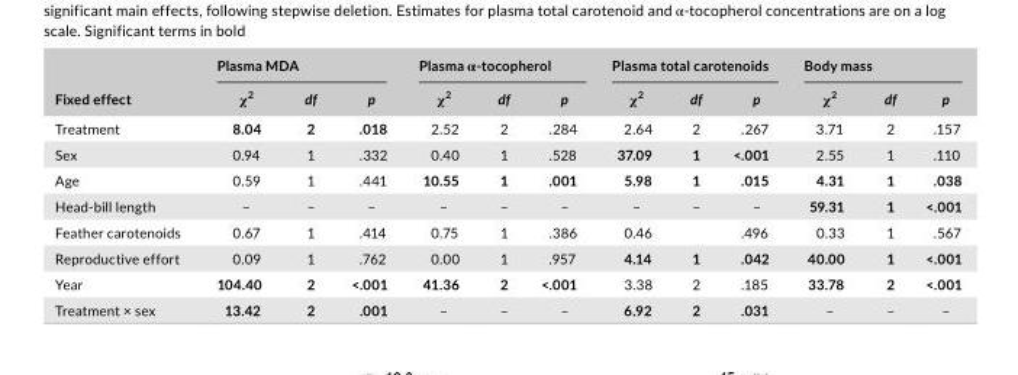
<table><thead><tr><td rowspan="2">Fixed effect</td><td colspan="3">Plasma MDA</td><td colspan="3">Plasma α- tocopherol</td><td colspan="3">Plasma total carotenoids</td><td colspan="3">Body mass</td></tr><tr><td>χ<sup>2</sup></td><td>df</td><td>p</td><td>χ<sup>2</sup></td><td>df</td><td>p</td><td>χ<sup>2</sup></td><td>df</td><td>p</td><td>χ<sup>2</sup></td><td>df</td><td>p</td></tr></thead><tbody><tr><td>Treatment</td><td>8.04</td><td>2</td><td>.018</td><td>2.52</td><td>2</td><td>.284</td><td>2.64</td><td>2</td><td>.267</td><td>3.71</td><td>2</td><td>.157</td></tr><tr><td>Sex</td><td>0.94</td><td>1</td><td>.332</td><td>0.40</td><td>1</td><td>.528</td><td>37.09</td><td>1</td><td>&lt;.001</td><td>2.55</td><td>1</td><td>.110</td></tr><tr><td>Age</td><td>0.59</td><td>1</td><td>.441</td><td>10.55</td><td>1</td><td>.001</td><td>5.98</td><td>1</td><td>.015</td><td>4.31</td><td>1</td><td>.038</td></tr><tr><td>Head- bill length</td><td>–</td><td>–</td><td>–</td><td>–</td><td>–</td><td>–</td><td>–</td><td>–</td><td>–</td><td>59.31</td><td>1</td><td>&lt;.001</td></tr><tr><td>Feather carotenoids</td><td>0.67</td><td>1</td><td>.414</td><td>0.75</td><td>1</td><td>.386</td><td>0.46</td><td></td><td>.496</td><td>0.33</td><td>1</td><td>.567</td></tr><tr><td>Reproductive effort</td><td>0.09</td><td>1</td><td>.762</td><td>0.00</td><td>1</td><td>.957</td><td>4.14</td><td>1</td><td>.042</td><td>40.00</td><td>1</td><td>&lt;.001</td></tr><tr><td>Year</td><td>104.40</td><td>2</td><td>&lt;.001</td><td>41.36</td><td>2</td><td>&lt;.001</td><td>3.38</td><td>2</td><td>.185</td><td>33.78</td><td>2</td><td>&lt;.001</td></tr><tr><td>Treatment × sex</td><td>13.42</td><td>2</td><td>.001</td><td>–</td><td>–</td><td>–</td><td>6.92</td><td>2</td><td>.031</td><td>–</td><td>–</td><td>–</td></tr></tbody></table>